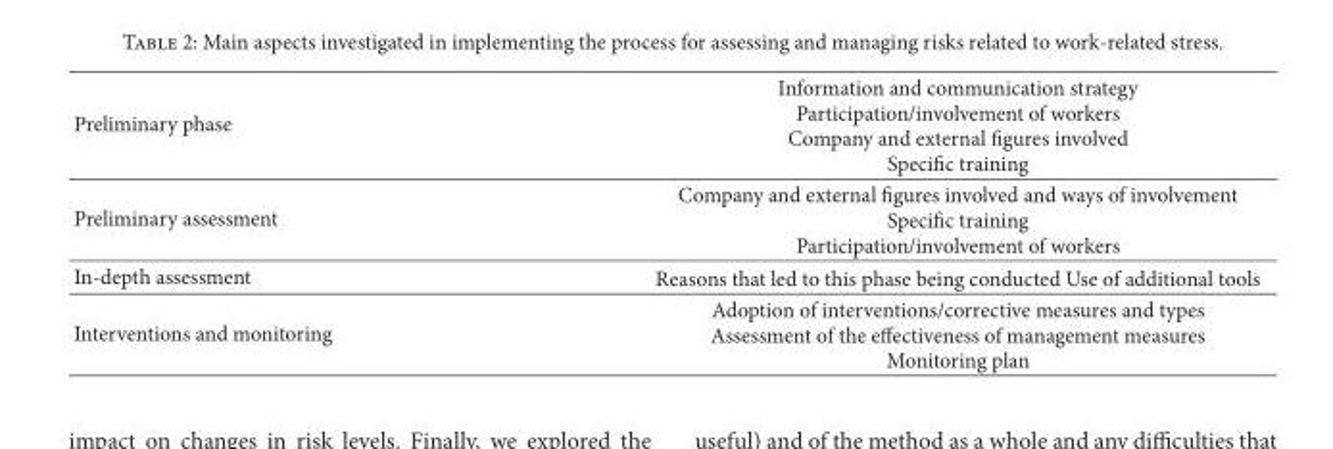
<table><thead><tr><td>Preliminary phase</td><td>Information and communication strategy Participation/involvement of workers Company and external figures involved Specific training</td></tr></thead><tbody><tr><td>Preliminary assessment</td><td>Company and external figures involved and ways of involvement Specific training Participation/involvement of workers</td></tr><tr><td>In-depth assessment</td><td>Reasons that led to this phase being conducted Use of additional tools</td></tr><tr><td>Interventions and monitoring</td><td>Adoption of interventions/corrective measures and types Assessment of the effectiveness of management measures Monitoring plan</td></tr></tbody></table>